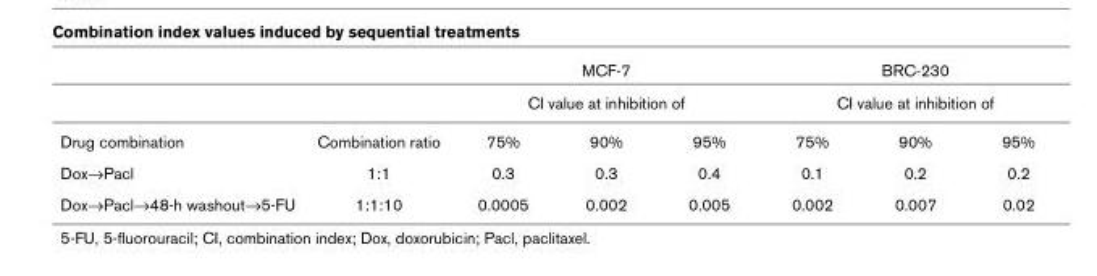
<table><thead><tr><td rowspan="3">Drug combination</td><td rowspan="3">Combination ratio</td><td rowspan="2" colspan="3">MCF-7 CI value at inhibition of</td><td rowspan="2" colspan="3">BRC-230 CI value at inhibition of</td></tr><tr></tr><tr><td>75%</td><td>90%</td><td>95%</td><td>75%</td><td>90%</td><td>95%</td></tr></thead><tbody><tr><td>Dox→Pacl</td><td>1:1</td><td>0.3</td><td>0.3</td><td>0.4</td><td>0.1</td><td>0.2</td><td>0.2</td></tr><tr><td>Dox→Pacl→48-h washout→5-FU</td><td>1:1:10</td><td>0.0005</td><td>0.002</td><td>0.005</td><td>0.002</td><td>0.007</td><td>0.02</td></tr></tbody></table>